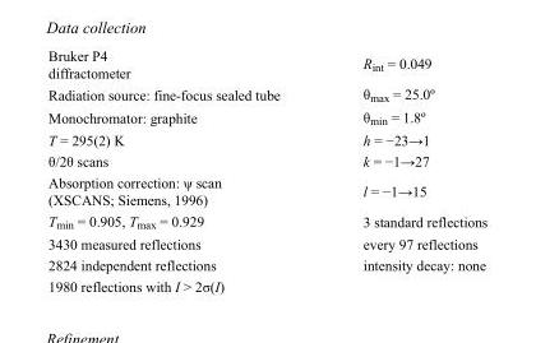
<table><tbody><tr><td>Bruker P4 diffractometer</td><td>R<sub>int</sub> = 0.049</td></tr><tr><td>Radiation source: fine-focus sealed tube</td><td>θ<sub>max</sub> = 25.0º</td></tr><tr><td>Monochromator: graphite</td><td>θ<sub>min</sub> = 1.8º</td></tr><tr><td>T = 295(2) K</td><td>h = −23→1</td></tr><tr><td>θ/2θ scans</td><td>k = −1→27</td></tr><tr><td>Absorption correction: ψ scan (XSCANS; Siemens, 1996)</td><td>l = −1→15</td></tr><tr><td>T<sub>min</sub> = 0.905, T<sub>max</sub> = 0.929</td><td>3 standard reflections</td></tr><tr><td>3430 measured reflections</td><td>every 97 reflections</td></tr><tr><td>2824 independent reflections</td><td>intensity decay: none</td></tr><tr><td>1980 reflections with I &gt; 2σ(I)</td><td></td></tr></tbody></table>